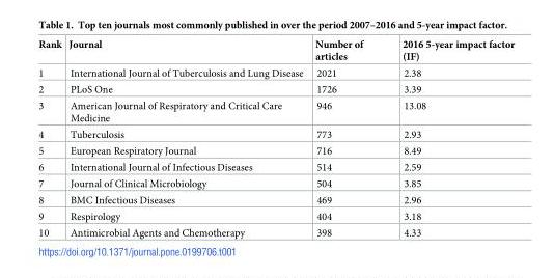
<table><thead><tr><td>Rank</td><td>Journal</td><td>Number of articles</td><td>2016 5-year impact factor (IF)</td></tr></thead><tbody><tr><td>1</td><td>International Journal of Tuberculosis and Lung Disease</td><td>2021</td><td>2.38</td></tr><tr><td>2</td><td>PLoS One</td><td>1726</td><td>3.39</td></tr><tr><td>3</td><td>American Journal of Respiratory and Critical Care Medicine</td><td>946</td><td>13.08</td></tr><tr><td>4</td><td>Tuberculosis</td><td>773</td><td>2.93</td></tr><tr><td>5</td><td>European Respiratory Journal</td><td>716</td><td>8.49</td></tr><tr><td>6</td><td>International Journal of Infectious Diseases</td><td>514</td><td>2.59</td></tr><tr><td>7</td><td>Journal of Clinical Microbiology</td><td>504</td><td>3.85</td></tr><tr><td>8</td><td>BMC Infectious Diseases</td><td>469</td><td>2.96</td></tr><tr><td>9</td><td>Respirology</td><td>404</td><td>3.18</td></tr><tr><td>10</td><td>Antimicrobial Agents and Chemotherapy</td><td>398</td><td>4.33</td></tr></tbody></table>